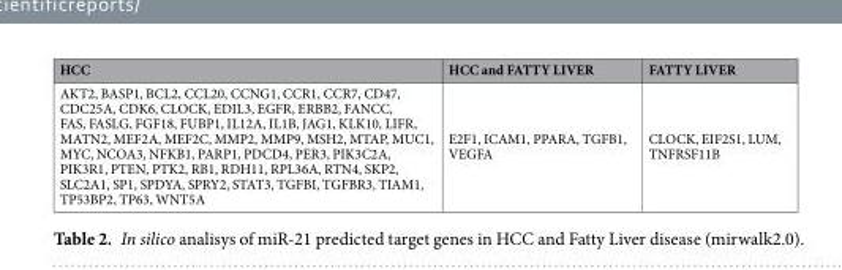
<table><thead><tr><td>HCC</td><td>HCC and FATTY LIVER</td><td>FATTY LIVER</td></tr></thead><tbody><tr><td>AKT2, BASP1, BCL2, CCL20, CCNG1, CCR1, CCR7, CD47, CDC25A, CDK6, CLOCK, EDIL3, EGFR, ERBB2, FANCC, FAS, FASLG, FGF18, FUBP1, IL12A, IL1B, JAG1, KLK10, LIFR, MATN2, MEF2A, MEF2C, MMP2, MMP9, MSH2, MTAP, MUC1, MYC, NCOA3, NFKB1, PARP1, PDCD4, PER3, PIK3C2A, PIK3R1, PTEN, PTK2, RB1, RDH11, RPL36A, RTN4, SKP2, SLC2A1, SP1, SPDYA, SPRY2, STAT3, TGFBI, TGFBR3, TIAM1, TP53BP2, TP63, WNT5A</td><td>E2F1, ICAM1, PPARA, TGFB1, VEGFA</td><td>CLOCK, EIF2S1, LUM, TNFRSF11B</td></tr></tbody></table>